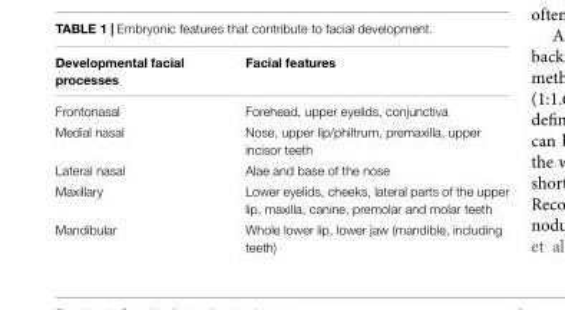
<table><thead><tr><td>Developmental facial processes</td><td>Facial features</td></tr></thead><tbody><tr><td>Frontonasal</td><td>Forehead, upper eyelids, conjunctiva</td></tr><tr><td>Medial nasal</td><td>Nose, upper lip/philtrum, premaxilla, upper incisor teeth</td></tr><tr><td>Lateral nasal</td><td>Alae and base of the nose</td></tr><tr><td>Maxillary</td><td>Lower eyelids, cheeks, lateral parts of the upper lip, maxilla, canine, premolar and molar teeth</td></tr><tr><td>Mandibular</td><td>Whole lower lip, lower jaw (mandible, including teeth)</td></tr></tbody></table>